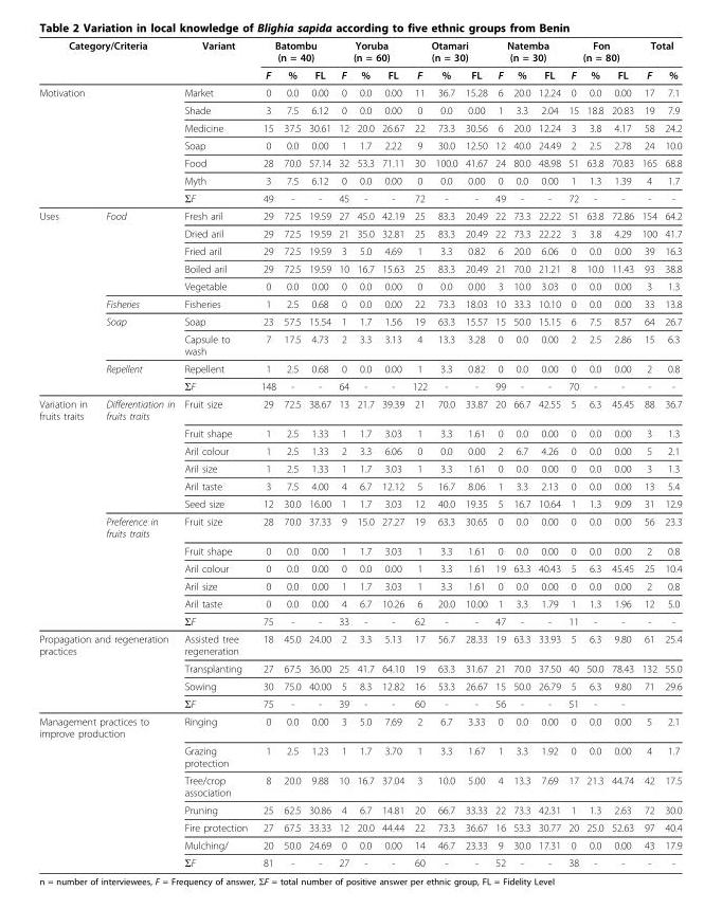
<table><thead><tr><td colspan="2">Category/Criteria</td><td rowspan="2">Variant</td><td colspan="3">Batombu (n = 40)</td><td colspan="3">Yoruba (n = 60)</td><td colspan="3">Otamari (n = 30)</td><td colspan="3">Natemba (n = 30)</td><td colspan="3">Fon (n = 80)</td><td colspan="2">Total</td></tr><tr><td></td><td></td><td>F</td><td>%</td><td>FL</td><td>F</td><td>%</td><td>FL</td><td>F</td><td>%</td><td>FL</td><td>F</td><td>%</td><td>FL</td><td>F</td><td>%</td><td>FL</td><td>F</td><td>%</td></tr></thead><tbody><tr><td rowspan="7">Motivation</td><td></td><td>Market</td><td>0</td><td>0.0</td><td>0.00</td><td>0</td><td>0.0</td><td>0.00</td><td>11</td><td>36.7</td><td>15.28</td><td>6</td><td>20.0</td><td>12.24</td><td>0</td><td>0.0</td><td>0.00</td><td>17</td><td>7.1</td></tr><tr><td></td><td>Shade</td><td>3</td><td>7.5</td><td>6.12</td><td>0</td><td>0.0</td><td>0.00</td><td>0</td><td>0.0</td><td>0.00</td><td>1</td><td>3.3</td><td>2.04</td><td>15</td><td>18.8</td><td>20.83</td><td>19</td><td>7.9</td></tr><tr><td></td><td>Medicine</td><td>15</td><td>37.5</td><td>30.61</td><td>12</td><td>20.0</td><td>26.67</td><td>22</td><td>73.3</td><td>30.56</td><td>6</td><td>20.0</td><td>12.24</td><td>3</td><td>3.8</td><td>4.17</td><td>58</td><td>24.2</td></tr><tr><td></td><td>Soap</td><td>0</td><td>0.0</td><td>0.00</td><td>1</td><td>1.7</td><td>2.22</td><td>9</td><td>30.0</td><td>12.50</td><td>12</td><td>40.0</td><td>24.49</td><td>2</td><td>2.5</td><td>2.78</td><td>24</td><td>10.0</td></tr><tr><td></td><td>Food</td><td>28</td><td>70.0</td><td>57.14</td><td>32</td><td>53.3</td><td>71.11</td><td>30</td><td>100.0</td><td>41.67</td><td>24</td><td>80.0</td><td>48.98</td><td>51</td><td>63.8</td><td>70.83</td><td>165</td><td>68.8</td></tr><tr><td></td><td>Myth</td><td>3</td><td>7.5</td><td>6.12</td><td>0</td><td>0.0</td><td>0.00</td><td>0</td><td>0.0</td><td>0.00</td><td>0</td><td>0.0</td><td>0.00</td><td>1</td><td>1.3</td><td>1.39</td><td>4</td><td>1.7</td></tr><tr><td></td><td>ΣF</td><td>49</td><td>-</td><td>-</td><td>45</td><td>-</td><td>-</td><td>72</td><td>-</td><td>-</td><td>49</td><td>-</td><td>-</td><td>72</td><td>-</td><td>-</td><td>-</td><td>-</td></tr><tr><td rowspan="10">Uses</td><td>Food</td><td>Fresh aril</td><td>29</td><td>72.5</td><td>19.59</td><td>27</td><td>45.0</td><td>42.19</td><td>25</td><td>83.3</td><td>20.49</td><td>22</td><td>73.3</td><td>22.22</td><td>51</td><td>63.8</td><td>72.86</td><td>154</td><td>64.2</td></tr><tr><td></td><td>Dried aril</td><td>29</td><td>72.5</td><td>19.59</td><td>21</td><td>35.0</td><td>32.81</td><td>25</td><td>83.3</td><td>20.49</td><td>22</td><td>73.3</td><td>22.22</td><td>3</td><td>3.8</td><td>4.29</td><td>100</td><td>41.7</td></tr><tr><td></td><td>Fried aril</td><td>29</td><td>72.5</td><td>19.59</td><td>3</td><td>5.0</td><td>4.69</td><td>1</td><td>3.3</td><td>0.82</td><td>6</td><td>20.0</td><td>6.06</td><td>0</td><td>0.0</td><td>0.00</td><td>39</td><td>16.3</td></tr><tr><td></td><td>Boiled aril</td><td>29</td><td>72.5</td><td>19.59</td><td>10</td><td>16.7</td><td>15.63</td><td>25</td><td>83.3</td><td>20.49</td><td>21</td><td>70.0</td><td>21.21</td><td>8</td><td>10.0</td><td>11.43</td><td>93</td><td>38.8</td></tr><tr><td></td><td>Vegetable</td><td>0</td><td>0.0</td><td>0.00</td><td>0</td><td>0.0</td><td>0.00</td><td>0</td><td>0.0</td><td>0.00</td><td>3</td><td>10.0</td><td>3.03</td><td>0</td><td>0.0</td><td>0.00</td><td>3</td><td>1.3</td></tr><tr><td>Fisheries</td><td>Fisheries</td><td>1</td><td>2.5</td><td>0.68</td><td>0</td><td>0.0</td><td>0.00</td><td>22</td><td>73.3</td><td>18.03</td><td>10</td><td>33.3</td><td>10.10</td><td>0</td><td>0.0</td><td>0.00</td><td>33</td><td>13.8</td></tr><tr><td>Soap</td><td>Soap</td><td>23</td><td>57.5</td><td>15.54</td><td>1</td><td>1.7</td><td>1.56</td><td>19</td><td>63.3</td><td>15.57</td><td>15</td><td>50.0</td><td>15.15</td><td>6</td><td>7.5</td><td>8.57</td><td>64</td><td>26.7</td></tr><tr><td></td><td>Capsule to wash</td><td>7</td><td>17.5</td><td>4.73</td><td>2</td><td>3.3</td><td>3.13</td><td>4</td><td>13.3</td><td>3.28</td><td>0</td><td>0.0</td><td>0.00</td><td>2</td><td>2.5</td><td>2.86</td><td>15</td><td>6.3</td></tr><tr><td>Repellent</td><td>Repellent</td><td>1</td><td>2.5</td><td>0.68</td><td>0</td><td>0.0</td><td>0.00</td><td>1</td><td>3.3</td><td>0.82</td><td>0</td><td>0.0</td><td>0.00</td><td>0</td><td>0.0</td><td>0.00</td><td>2</td><td>0.8</td></tr><tr><td></td><td>ΣF</td><td>148</td><td>-</td><td>-</td><td>64</td><td>-</td><td>-</td><td>122</td><td>-</td><td>-</td><td>99</td><td>-</td><td>-</td><td>70</td><td>-</td><td>-</td><td>-</td><td>-</td></tr><tr><td rowspan="12">Variation in fruits traits</td><td>Differentiation in fruits traits</td><td>Fruit size</td><td>29</td><td>72.5</td><td>38.67</td><td>13</td><td>21.7</td><td>39.39</td><td>21</td><td>70.0</td><td>33.87</td><td>20</td><td>66.7</td><td>42.55</td><td>5</td><td>6.3</td><td>45.45</td><td>88</td><td>36.7</td></tr><tr><td></td><td>Fruit shape</td><td>1</td><td>2.5</td><td>1.33</td><td>1</td><td>1.7</td><td>3.03</td><td>1</td><td>3.3</td><td>1.61</td><td>0</td><td>0.0</td><td>0.00</td><td>0</td><td>0.0</td><td>0.00</td><td>3</td><td>1.3</td></tr><tr><td></td><td>Aril colour</td><td>1</td><td>2.5</td><td>1.33</td><td>2</td><td>3.3</td><td>6.06</td><td>0</td><td>0.0</td><td>0.00</td><td>2</td><td>6.7</td><td>4.26</td><td>0</td><td>0.0</td><td>0.00</td><td>5</td><td>2.1</td></tr><tr><td></td><td>Aril size</td><td>1</td><td>2.5</td><td>1.33</td><td>1</td><td>1.7</td><td>3.03</td><td>1</td><td>3.3</td><td>1.61</td><td>0</td><td>0.0</td><td>0.00</td><td>0</td><td>0.0</td><td>0.00</td><td>3</td><td>1.3</td></tr><tr><td></td><td>Aril taste</td><td>3</td><td>7.5</td><td>4.00</td><td>4</td><td>6.7</td><td>12.12</td><td>5</td><td>16.7</td><td>8.06</td><td>1</td><td>3.3</td><td>2.13</td><td>0</td><td>0.0</td><td>0.00</td><td>13</td><td>5.4</td></tr><tr><td></td><td>Seed size</td><td>12</td><td>30.0</td><td>16.00</td><td>1</td><td>1.7</td><td>3.03</td><td>12</td><td>40.0</td><td>19.35</td><td>5</td><td>16.7</td><td>10.64</td><td>1</td><td>1.3</td><td>9.09</td><td>31</td><td>12.9</td></tr><tr><td>Preference in fruits traits</td><td>Fruit size</td><td>28</td><td>70.0</td><td>37.33</td><td>9</td><td>15.0</td><td>27.27</td><td>19</td><td>63.3</td><td>30.65</td><td>0</td><td>0.0</td><td>0.00</td><td>0</td><td>0.0</td><td>0.00</td><td>56</td><td>23.3</td></tr><tr><td></td><td>Fruit shape</td><td>0</td><td>0.0</td><td>0.00</td><td>1</td><td>1.7</td><td>3.03</td><td>1</td><td>3.3</td><td>1.61</td><td>0</td><td>0.0</td><td>0.00</td><td>0</td><td>0.0</td><td>0.00</td><td>2</td><td>0.8</td></tr><tr><td></td><td>Aril colour</td><td>0</td><td>0.0</td><td>0.00</td><td>0</td><td>0.0</td><td>0.00</td><td>1</td><td>3.3</td><td>1.61</td><td>19</td><td>63.3</td><td>40.43</td><td>5</td><td>6.3</td><td>45.45</td><td>25</td><td>10.4</td></tr><tr><td></td><td>Aril size</td><td>0</td><td>0.0</td><td>0.00</td><td>1</td><td>1.7</td><td>3.03</td><td>1</td><td>3.3</td><td>1.61</td><td>0</td><td>0.0</td><td>0.00</td><td>0</td><td>0.0</td><td>0.00</td><td>2</td><td>0.8</td></tr><tr><td></td><td>Aril taste</td><td>0</td><td>0.0</td><td>0.00</td><td>4</td><td>6.7</td><td>10.26</td><td>6</td><td>20.0</td><td>10.00</td><td>1</td><td>3.3</td><td>1.79</td><td>1</td><td>1.3</td><td>1.96</td><td>12</td><td>5.0</td></tr><tr><td></td><td>ΣF</td><td>75</td><td>-</td><td>-</td><td>33</td><td>-</td><td>-</td><td>62</td><td>-</td><td>-</td><td>47</td><td>-</td><td>-</td><td>11</td><td>-</td><td>-</td><td>-</td><td>-</td></tr><tr><td colspan="2">Propagation and regeneration practices</td><td>Assisted tree regeneration</td><td>18</td><td>45.0</td><td>24.00</td><td>2</td><td>3.3</td><td>5.13</td><td>17</td><td>56.7</td><td>28.33</td><td>19</td><td>63.3</td><td>33.93</td><td>5</td><td>6.3</td><td>9.80</td><td>61</td><td>25.4</td></tr><tr><td></td><td></td><td>Transplanting</td><td>27</td><td>67.5</td><td>36.00</td><td>25</td><td>41.7</td><td>64.10</td><td>19</td><td>63.3</td><td>31.67</td><td>21</td><td>70.0</td><td>37.50</td><td>40</td><td>50.0</td><td>78.43</td><td>132</td><td>55.0</td></tr><tr><td></td><td></td><td>Sowing</td><td>30</td><td>75.0</td><td>40.00</td><td>5</td><td>8.3</td><td>12.82</td><td>16</td><td>53.3</td><td>26.67</td><td>15</td><td>50.0</td><td>26.79</td><td>5</td><td>6.3</td><td>9.80</td><td>71</td><td>29.6</td></tr><tr><td></td><td></td><td>ΣF</td><td>75</td><td>-</td><td>-</td><td>39</td><td>-</td><td>-</td><td>60</td><td>-</td><td>-</td><td>56</td><td>-</td><td>-</td><td>51</td><td>-</td><td>-</td><td></td><td></td></tr><tr><td colspan="2">Management practices to improve production</td><td>Ringing</td><td>0</td><td>0.0</td><td>0.00</td><td>3</td><td>5.0</td><td>7.69</td><td>2</td><td>6.7</td><td>3.33</td><td>0</td><td>0.0</td><td>0.00</td><td>0</td><td>0.0</td><td>0.00</td><td>5</td><td>2.1</td></tr><tr><td></td><td></td><td>Grazing protection</td><td>1</td><td>2.5</td><td>1.23</td><td>1</td><td>1.7</td><td>3.70</td><td>1</td><td>3.3</td><td>1.67</td><td>1</td><td>3.3</td><td>1.92</td><td>0</td><td>0.0</td><td>0.00</td><td>4</td><td>1.7</td></tr><tr><td></td><td></td><td>Tree/crop association</td><td>8</td><td>20.0</td><td>9.88</td><td>10</td><td>16.7</td><td>37.04</td><td>3</td><td>10.0</td><td>5.00</td><td>4</td><td>13.3</td><td>7.69</td><td>17</td><td>21.3</td><td>44.74</td><td>42</td><td>17.5</td></tr><tr><td></td><td></td><td>Pruning</td><td>25</td><td>62.5</td><td>30.86</td><td>4</td><td>6.7</td><td>14.81</td><td>20</td><td>66.7</td><td>33.33</td><td>22</td><td>73.3</td><td>42.31</td><td>1</td><td>1.3</td><td>2.63</td><td>72</td><td>30.0</td></tr><tr><td></td><td></td><td>Fire protection</td><td>27</td><td>67.5</td><td>33.33</td><td>12</td><td>20.0</td><td>44.44</td><td>22</td><td>73.3</td><td>36.67</td><td>16</td><td>53.3</td><td>30.77</td><td>20</td><td>25.0</td><td>52.63</td><td>97</td><td>40.4</td></tr><tr><td></td><td></td><td>Mulching/</td><td>20</td><td>50.0</td><td>24.69</td><td>0</td><td>0.0</td><td>0.00</td><td>14</td><td>46.7</td><td>23.33</td><td>9</td><td>30.0</td><td>17.31</td><td>0</td><td>0.0</td><td>0.00</td><td>43</td><td>17.9</td></tr><tr><td></td><td></td><td>ΣF</td><td>81</td><td>-</td><td>-</td><td>27</td><td>-</td><td>-</td><td>60</td><td>-</td><td>-</td><td>52</td><td>-</td><td>-</td><td>38</td><td>-</td><td>-</td><td>-</td><td>-</td></tr></tbody></table>